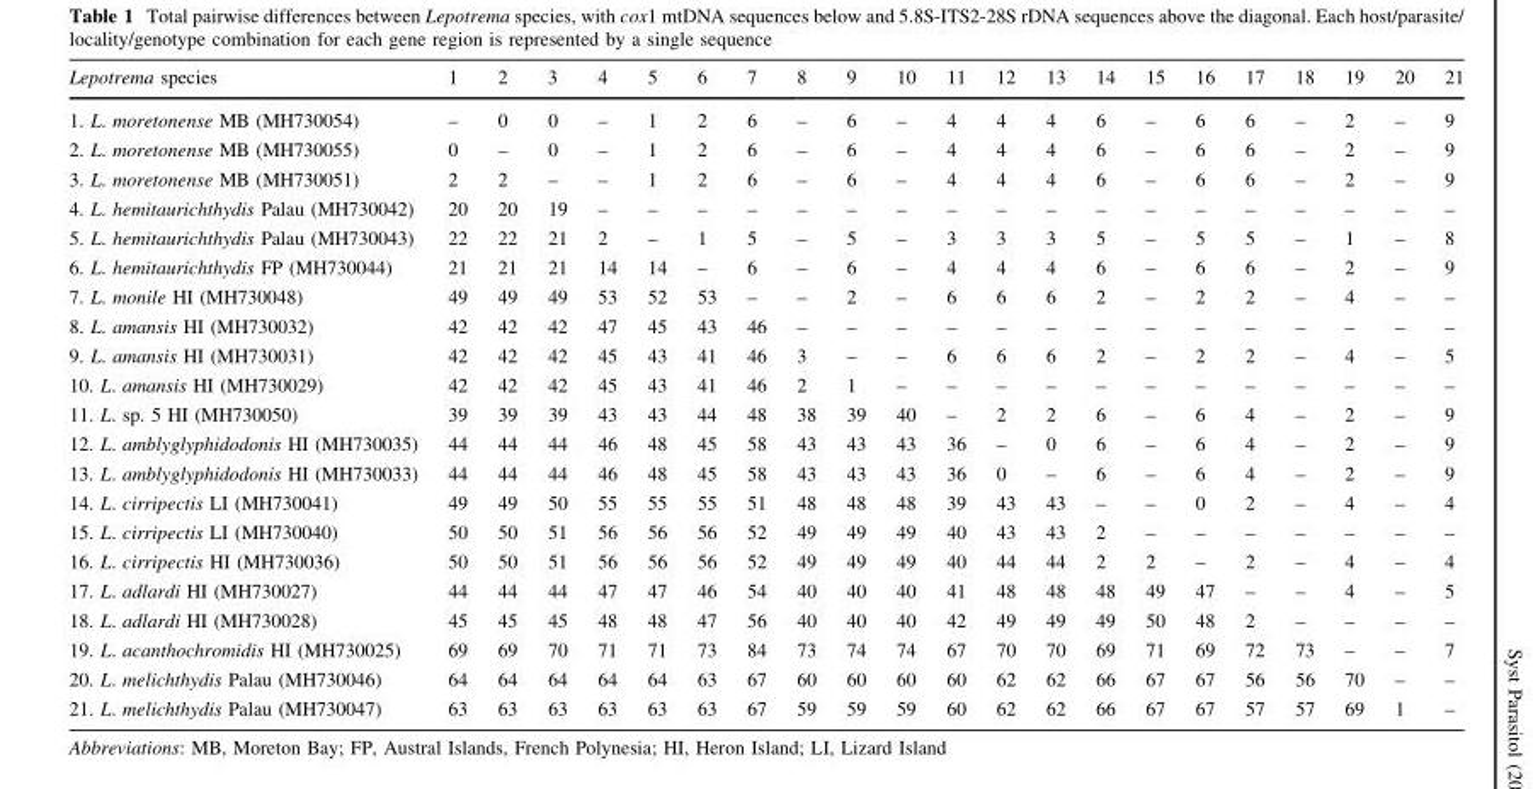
<table><thead><tr><td>Lepotrema species</td><td>1</td><td>2</td><td>3</td><td>4</td><td>5</td><td>6</td><td>7</td><td>8</td><td>9</td><td>10</td><td>11</td><td>12</td><td>13</td><td>14</td><td>15</td><td>16</td><td>17</td><td>18</td><td>19</td><td>20</td><td>21</td></tr></thead><tbody><tr><td>1. L. moretonense MB (MH730054)</td><td>–</td><td>0</td><td>0</td><td>–</td><td>1</td><td>2</td><td>6</td><td>–</td><td>6</td><td>–</td><td>4</td><td>4</td><td>4</td><td>6</td><td>–</td><td>6</td><td>6</td><td>–</td><td>2</td><td>–</td><td>9</td></tr><tr><td>2. L. moretonense MB (MH730055)</td><td>0</td><td>–</td><td>0</td><td>–</td><td>1</td><td>2</td><td>6</td><td>–</td><td>6</td><td>–</td><td>4</td><td>4</td><td>4</td><td>6</td><td>–</td><td>6</td><td>6</td><td>–</td><td>2</td><td>–</td><td>9</td></tr><tr><td>3. L. moretonense MB (MH730051)</td><td>2</td><td>2</td><td>–</td><td>–</td><td>1</td><td>2</td><td>6</td><td>–</td><td>6</td><td>–</td><td>4</td><td>4</td><td>4</td><td>6</td><td>–</td><td>6</td><td>6</td><td>–</td><td>2</td><td>–</td><td>9</td></tr><tr><td>4. L. hemitaurichthydis Palau (MH730042)</td><td>20</td><td>20</td><td>19</td><td>–</td><td>–</td><td>–</td><td>–</td><td>–</td><td>–</td><td>–</td><td>–</td><td>–</td><td>–</td><td>–</td><td>–</td><td>–</td><td>–</td><td>–</td><td>–</td><td>–</td><td>–</td></tr><tr><td>5. L. hemitaurichthydis Palau (MH730043)</td><td>22</td><td>22</td><td>21</td><td>2</td><td>–</td><td>1</td><td>5</td><td>–</td><td>5</td><td>–</td><td>3</td><td>3</td><td>3</td><td>5</td><td>–</td><td>5</td><td>5</td><td>–</td><td>1</td><td>–</td><td>8</td></tr><tr><td>6. L. hemitaurichthydis FP (MH730044)</td><td>21</td><td>21</td><td>21</td><td>14</td><td>14</td><td>–</td><td>6</td><td>–</td><td>6</td><td>–</td><td>4</td><td>4</td><td>4</td><td>6</td><td>–</td><td>6</td><td>6</td><td>–</td><td>2</td><td>–</td><td>9</td></tr><tr><td>7. L. monile HI (MH730048)</td><td>49</td><td>49</td><td>49</td><td>53</td><td>52</td><td>53</td><td>–</td><td>–</td><td>2</td><td>–</td><td>6</td><td>6</td><td>6</td><td>2</td><td>–</td><td>2</td><td>2</td><td>–</td><td>4</td><td>–</td><td>–</td></tr><tr><td>8. L. amansis HI (MH730032)</td><td>42</td><td>42</td><td>42</td><td>47</td><td>45</td><td>43</td><td>46</td><td>–</td><td>–</td><td>–</td><td>–</td><td>–</td><td>–</td><td>–</td><td>–</td><td>–</td><td>–</td><td>–</td><td>–</td><td>–</td><td>–</td></tr><tr><td>9. L. amansis HI (MH730031)</td><td>42</td><td>42</td><td>42</td><td>45</td><td>43</td><td>41</td><td>46</td><td>3</td><td>–</td><td>–</td><td>6</td><td>6</td><td>6</td><td>2</td><td>–</td><td>2</td><td>2</td><td>–</td><td>4</td><td>–</td><td>5</td></tr><tr><td>10. L. amansis HI (MH730029)</td><td>42</td><td>42</td><td>42</td><td>45</td><td>43</td><td>41</td><td>46</td><td>2</td><td>1</td><td>–</td><td>–</td><td>–</td><td>–</td><td>–</td><td>–</td><td>–</td><td>–</td><td>–</td><td>–</td><td>–</td><td>–</td></tr><tr><td>11. L. sp. 5 HI (MH730050)</td><td>39</td><td>39</td><td>39</td><td>43</td><td>43</td><td>44</td><td>48</td><td>38</td><td>39</td><td>40</td><td>–</td><td>2</td><td>2</td><td>6</td><td>–</td><td>6</td><td>4</td><td>–</td><td>2</td><td>–</td><td>9</td></tr><tr><td>12. L. amblyglyphidodonis HI (MH730035)</td><td>44</td><td>44</td><td>44</td><td>46</td><td>48</td><td>45</td><td>58</td><td>43</td><td>43</td><td>43</td><td>36</td><td>–</td><td>0</td><td>6</td><td>–</td><td>6</td><td>4</td><td>–</td><td>2</td><td>–</td><td>9</td></tr><tr><td>13. L. amblyglyphidodonis HI (MH730033)</td><td>44</td><td>44</td><td>44</td><td>46</td><td>48</td><td>45</td><td>58</td><td>43</td><td>43</td><td>43</td><td>36</td><td>0</td><td>–</td><td>6</td><td>–</td><td>6</td><td>4</td><td>–</td><td>2</td><td>–</td><td>9</td></tr><tr><td>14. L. cirripectis LI (MH730041)</td><td>49</td><td>49</td><td>50</td><td>55</td><td>55</td><td>55</td><td>51</td><td>48</td><td>48</td><td>48</td><td>39</td><td>43</td><td>43</td><td>–</td><td>–</td><td>0</td><td>2</td><td>–</td><td>4</td><td>–</td><td>4</td></tr><tr><td>15. L. cirripectis LI (MH730040)</td><td>50</td><td>50</td><td>51</td><td>56</td><td>56</td><td>56</td><td>52</td><td>49</td><td>49</td><td>49</td><td>40</td><td>43</td><td>43</td><td>2</td><td>–</td><td>–</td><td>–</td><td>–</td><td>–</td><td>–</td><td>–</td></tr><tr><td>16. L. cirripectis HI (MH730036)</td><td>50</td><td>50</td><td>51</td><td>56</td><td>56</td><td>56</td><td>52</td><td>49</td><td>49</td><td>49</td><td>40</td><td>44</td><td>44</td><td>2</td><td>2</td><td>–</td><td>2</td><td>–</td><td>4</td><td>–</td><td>4</td></tr><tr><td>17. L. adlardi HI (MH730027)</td><td>44</td><td>44</td><td>44</td><td>47</td><td>47</td><td>46</td><td>54</td><td>40</td><td>40</td><td>40</td><td>41</td><td>48</td><td>48</td><td>48</td><td>49</td><td>47</td><td>–</td><td>–</td><td>4</td><td>–</td><td>5</td></tr><tr><td>18. L. adlardi HI (MH730028)</td><td>45</td><td>45</td><td>45</td><td>48</td><td>48</td><td>47</td><td>56</td><td>40</td><td>40</td><td>40</td><td>42</td><td>49</td><td>49</td><td>49</td><td>50</td><td>48</td><td>2</td><td>–</td><td>–</td><td>–</td><td>–</td></tr><tr><td>19. L. acanthochromidis HI (MH730025)</td><td>69</td><td>69</td><td>70</td><td>71</td><td>71</td><td>73</td><td>84</td><td>73</td><td>74</td><td>74</td><td>67</td><td>70</td><td>70</td><td>69</td><td>71</td><td>69</td><td>72</td><td>73</td><td>–</td><td>–</td><td>7</td></tr><tr><td>20. L. melichthydis Palau (MH730046)</td><td>64</td><td>64</td><td>64</td><td>64</td><td>64</td><td>63</td><td>67</td><td>60</td><td>60</td><td>60</td><td>60</td><td>62</td><td>62</td><td>66</td><td>67</td><td>67</td><td>56</td><td>56</td><td>70</td><td>–</td><td>–</td></tr><tr><td>21. L. melichthydis Palau (MH730047)</td><td>63</td><td>63</td><td>63</td><td>63</td><td>63</td><td>63</td><td>67</td><td>59</td><td>59</td><td>59</td><td>60</td><td>62</td><td>62</td><td>66</td><td>67</td><td>67</td><td>57</td><td>57</td><td>69</td><td>1</td><td>–</td></tr></tbody></table>